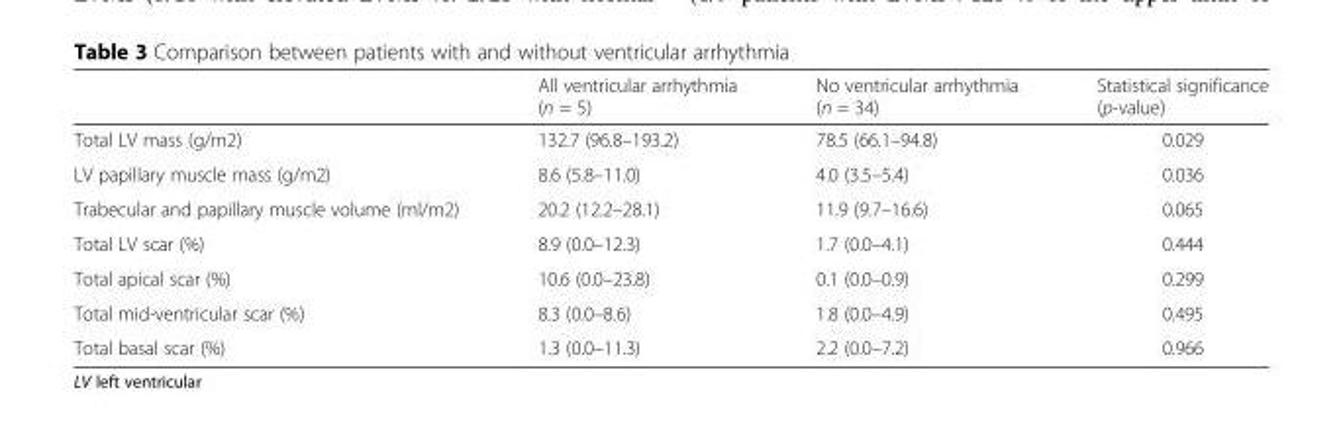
<table><thead><tr><td></td><td>All ventricular arrhythmia (n = 5)</td><td>No ventricular arrhythmia (n = 34)</td><td>Statistical significance (p-value)</td></tr></thead><tbody><tr><td>Total LV mass (g/m2)</td><td>132.7 (96.8–193.2)</td><td>78.5 (66.1–94.8)</td><td>0.029</td></tr><tr><td>LV papillary muscle mass (g/m2)</td><td>8.6 (5.8–11.0)</td><td>4.0 (3.5–5.4)</td><td>0.036</td></tr><tr><td>Trabecular and papillary muscle volume (ml/m2)</td><td>20.2 (12.2–28.1)</td><td>11.9 (9.7–16.6)</td><td>0.065</td></tr><tr><td>Total LV scar (%)</td><td>8.9 (0.0–12.3)</td><td>1.7 (0.0–4.1)</td><td>0.444</td></tr><tr><td>Total apical scar (%)</td><td>10.6 (0.0–23.8)</td><td>0.1 (0.0–0.9)</td><td>0.299</td></tr><tr><td>Total mid-ventricular scar (%)</td><td>8.3 (0.0–8.6)</td><td>1.8 (0.0–4.9)</td><td>0.495</td></tr><tr><td>Total basal scar (%)</td><td>1.3 (0.0–11.3)</td><td>2.2 (0.0–7.2)</td><td>0.966</td></tr></tbody></table>